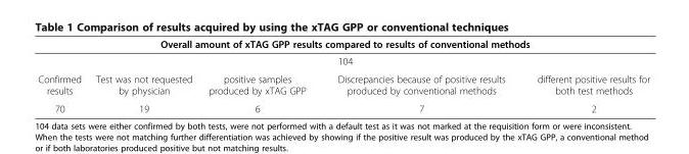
<table><thead><tr><td rowspan="2" colspan="5">Overall amount of xTAG GPP results compared to results of conventional methods 104</td></tr><tr></tr><tr><td>Confirmed results</td><td>Test was not requested by physician</td><td>positive samples produced by xTAG GPP</td><td>Discrepancies because of positive results produced by conventional methods</td><td>different positive results for both test methods</td></tr></thead><tbody><tr><td>70</td><td>19</td><td>6</td><td>7</td><td>2</td></tr></tbody></table>